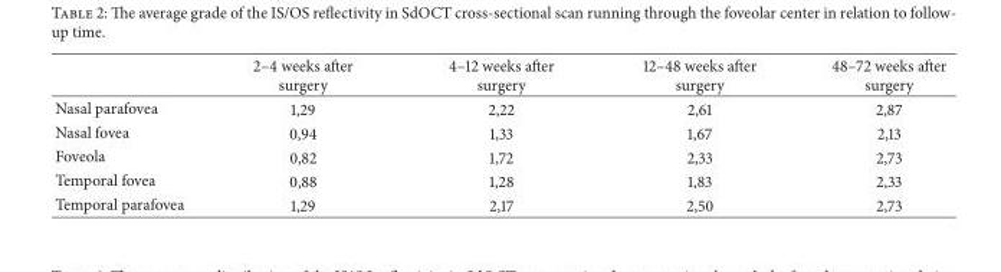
<table><thead><tr><td></td><td>2–4 weeks after surgery</td><td>4–12 weeks after surgery</td><td>12–48 weeks after surgery</td><td>48–72 weeks after surgery</td></tr></thead><tbody><tr><td>Nasal parafovea</td><td>1,29</td><td>2,22</td><td>2,61</td><td>2,87</td></tr><tr><td>Nasal fovea</td><td>0,94</td><td>1,33</td><td>1,67</td><td>2,13</td></tr><tr><td>Foveola</td><td>0,82</td><td>1,72</td><td>2,33</td><td>2,73</td></tr><tr><td>Temporal fovea</td><td>0,88</td><td>1,28</td><td>1,83</td><td>2,33</td></tr><tr><td>Temporal parafovea</td><td>1,29</td><td>2,17</td><td>2,50</td><td>2,73</td></tr></tbody></table>